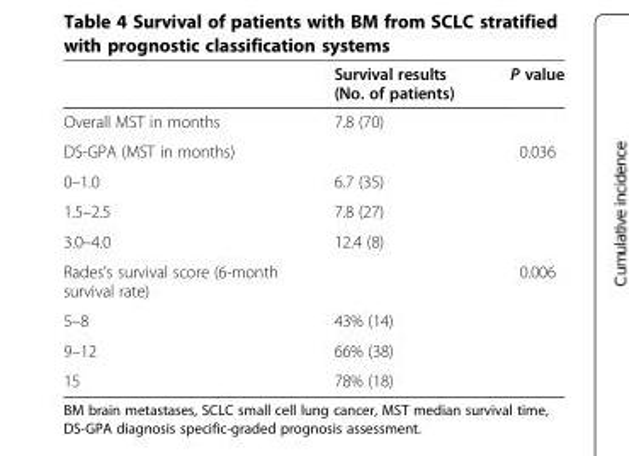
<table><thead><tr><td></td><td>Survival results (No. of patients)</td><td>P value</td></tr></thead><tbody><tr><td>Overall MST in months</td><td>7.8 (70)</td><td></td></tr><tr><td>DS-GPA (MST in months)</td><td></td><td>0.036</td></tr><tr><td>0–1.0</td><td>6.7 (35)</td><td></td></tr><tr><td>1.5–2.5</td><td>7.8 (27)</td><td></td></tr><tr><td>3.0–4.0</td><td>12.4 (8)</td><td></td></tr><tr><td>Rades’s survival score (6-month survival rate)</td><td></td><td>0.006</td></tr><tr><td>5–8</td><td>43% (14)</td><td></td></tr><tr><td>9–12</td><td>66% (38)</td><td></td></tr><tr><td>15</td><td>78% (18)</td><td></td></tr></tbody></table>